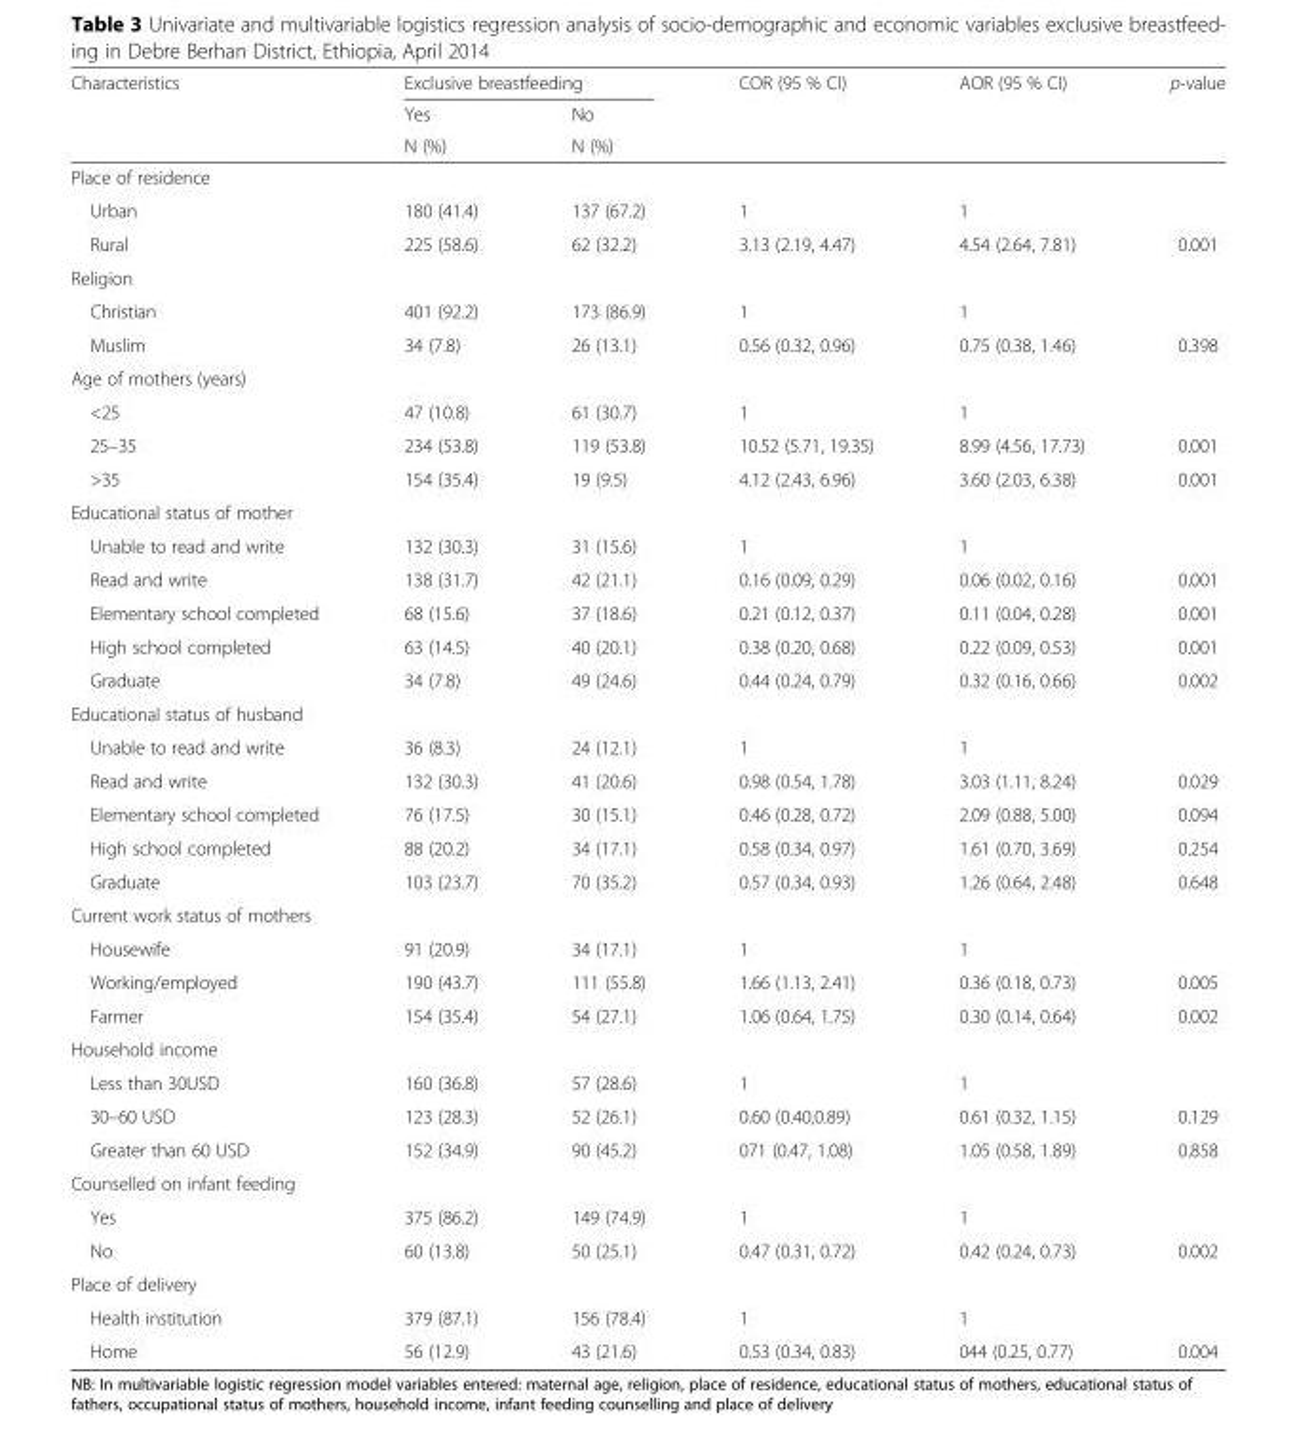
<table><thead><tr><td rowspan="3">Characteristics</td><td colspan="2">Exclusive breastfeeding</td><td rowspan="3">COR (95 % CI)</td><td rowspan="3">AOR (95 % CI)</td><td rowspan="3">p-value</td></tr><tr><td rowspan="2">Yes N (%)</td><td rowspan="2">No N (%)</td></tr><tr></tr></thead><tbody><tr><td colspan="6">Place of residence</td></tr><tr><td>Urban</td><td>180 (41.4)</td><td>137 (67.2)</td><td>1</td><td>1</td><td></td></tr><tr><td>Rural</td><td>225 (58.6)</td><td>62 (32.2)</td><td>3.13 (2.19, 4.47)</td><td>4.54 (2.64, 7.81)</td><td>0.001</td></tr><tr><td colspan="6">Religion</td></tr><tr><td>Christian</td><td>401 (92.2)</td><td>173 (86.9)</td><td>1</td><td>1</td><td></td></tr><tr><td>Muslim</td><td>34 (7.8)</td><td>26 (13.1)</td><td>0.56 (0.32, 0.96)</td><td>0.75 (0.38, 1.46)</td><td>0.398</td></tr><tr><td colspan="6">Age of mothers (years)</td></tr><tr><td>&lt;25</td><td>47 (10.8)</td><td>61 (30.7)</td><td>1</td><td>1</td><td></td></tr><tr><td>25–35</td><td>234 (53.8)</td><td>119 (53.8)</td><td>10.52 (5.71, 19.35)</td><td>8.99 (4.56, 17.73)</td><td>0.001</td></tr><tr><td>&gt;35</td><td>154 (35.4)</td><td>19 (9.5)</td><td>4.12 (2.43, 6.96)</td><td>3.60 (2.03, 6.38)</td><td>0.001</td></tr><tr><td colspan="6">Educational status of mother</td></tr><tr><td>Unable to read and write</td><td>132 (30.3)</td><td>31 (15.6)</td><td>1</td><td>1</td><td></td></tr><tr><td>Read and write</td><td>138 (31.7)</td><td>42 (21.1)</td><td>0.16 (0.09, 0.29)</td><td>0.06 (0.02, 0.16)</td><td>0.001</td></tr><tr><td>Elementary school completed</td><td>68 (15.6)</td><td>37 (18.6)</td><td>0.21 (0.12, 0.37)</td><td>0.11 (0.04, 0.28)</td><td>0.001</td></tr><tr><td>High school completed</td><td>63 (14.5)</td><td>40 (20.1)</td><td>0.38 (0.20, 0.68)</td><td>0.22 (0.09, 0.53)</td><td>0.001</td></tr><tr><td>Graduate</td><td>34 (7.8)</td><td>49 (24.6)</td><td>0.44 (0.24, 0.79)</td><td>0.32 (0.16, 0.66)</td><td>0.002</td></tr><tr><td colspan="6">Educational status of husband</td></tr><tr><td>Unable to read and write</td><td>36 (8.3)</td><td>24 (12.1)</td><td>1</td><td>1</td><td></td></tr><tr><td>Read and write</td><td>132 (30.3)</td><td>41 (20.6)</td><td>0.98 (0.54, 1.78)</td><td>3.03 (1.11, 8.24)</td><td>0.029</td></tr><tr><td>Elementary school completed</td><td>76 (17.5)</td><td>30 (15.1)</td><td>0.46 (0.28, 0.72)</td><td>2.09 (0.88, 5.00)</td><td>0.094</td></tr><tr><td>High school completed</td><td>88 (20.2)</td><td>34 (17.1)</td><td>0.58 (0.34, 0.97)</td><td>1.61 (0.70, 3.69)</td><td>0.254</td></tr><tr><td>Graduate</td><td>103 (23.7)</td><td>70 (35.2)</td><td>0.57 (0.34, 0.93)</td><td>1.26 (0.64, 2.48)</td><td>0.648</td></tr><tr><td colspan="6">Current work status of mothers</td></tr><tr><td>Housewife</td><td>91 (20.9)</td><td>34 (17.1)</td><td>1</td><td>1</td><td></td></tr><tr><td>Working/employed</td><td>190 (43.7)</td><td>111 (55.8)</td><td>1.66 (1.13, 2.41)</td><td>0.36 (0.18, 0.73)</td><td>0.005</td></tr><tr><td>Farmer</td><td>154 (35.4)</td><td>54 (27.1)</td><td>1.06 (0.64, 1.75)</td><td>0.30 (0.14, 0.64)</td><td>0.002</td></tr><tr><td colspan="6">Household income</td></tr><tr><td>Less than 30USD</td><td>160 (36.8)</td><td>57 (28.6)</td><td>1</td><td>1</td><td></td></tr><tr><td>30–60 USD</td><td>123 (28.3)</td><td>52 (26.1)</td><td>0.60 (0.40,0.89)</td><td>0.61 (0.32, 1.15)</td><td>0.129</td></tr><tr><td>Greater than 60 USD</td><td>152 (34.9)</td><td>90 (45.2)</td><td>071 (0.47, 1.08)</td><td>1.05 (0.58, 1.89)</td><td>0.858</td></tr><tr><td colspan="6">Counselled on infant feeding</td></tr><tr><td>Yes</td><td>375 (86.2)</td><td>149 (74.9)</td><td>1</td><td>1</td><td></td></tr><tr><td>No</td><td>60 (13.8)</td><td>50 (25.1)</td><td>0.47 (0.31, 0.72)</td><td>0.42 (0.24, 0.73)</td><td>0.002</td></tr><tr><td colspan="6">Place of delivery</td></tr><tr><td>Health institution</td><td>379 (87.1)</td><td>156 (78.4)</td><td>1</td><td>1</td><td></td></tr><tr><td>Home</td><td>56 (12.9)</td><td>43 (21.6)</td><td>0.53 (0.34, 0.83)</td><td>044 (0.25, 0.77)</td><td>0.004</td></tr></tbody></table>